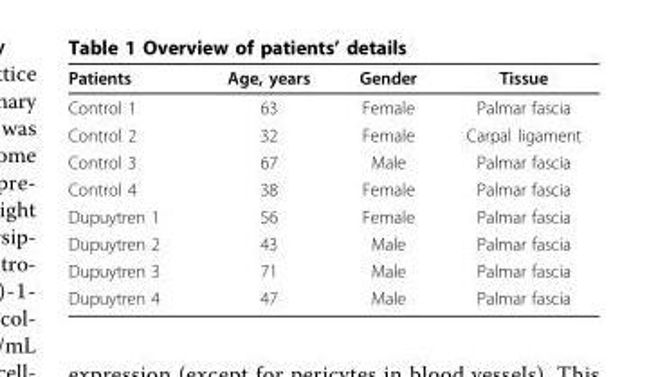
<table><thead><tr><td>Patients</td><td>Age, years</td><td>Gender</td><td>Tissue</td></tr></thead><tbody><tr><td>Control 1</td><td>63</td><td>Female</td><td>Palmar fascia</td></tr><tr><td>Control 2</td><td>32</td><td>Female</td><td>Carpal ligament</td></tr><tr><td>Control 3</td><td>67</td><td>Male</td><td>Palmar fascia</td></tr><tr><td>Control 4</td><td>38</td><td>Female</td><td>Palmar fascia</td></tr><tr><td>Dupuytren 1</td><td>56</td><td>Female</td><td>Palmar fascia</td></tr><tr><td>Dupuytren 2</td><td>43</td><td>Male</td><td>Palmar fascia</td></tr><tr><td>Dupuytren 3</td><td>71</td><td>Male</td><td>Palmar fascia</td></tr><tr><td>Dupuytren 4</td><td>47</td><td>Male</td><td>Palmar fascia</td></tr></tbody></table>